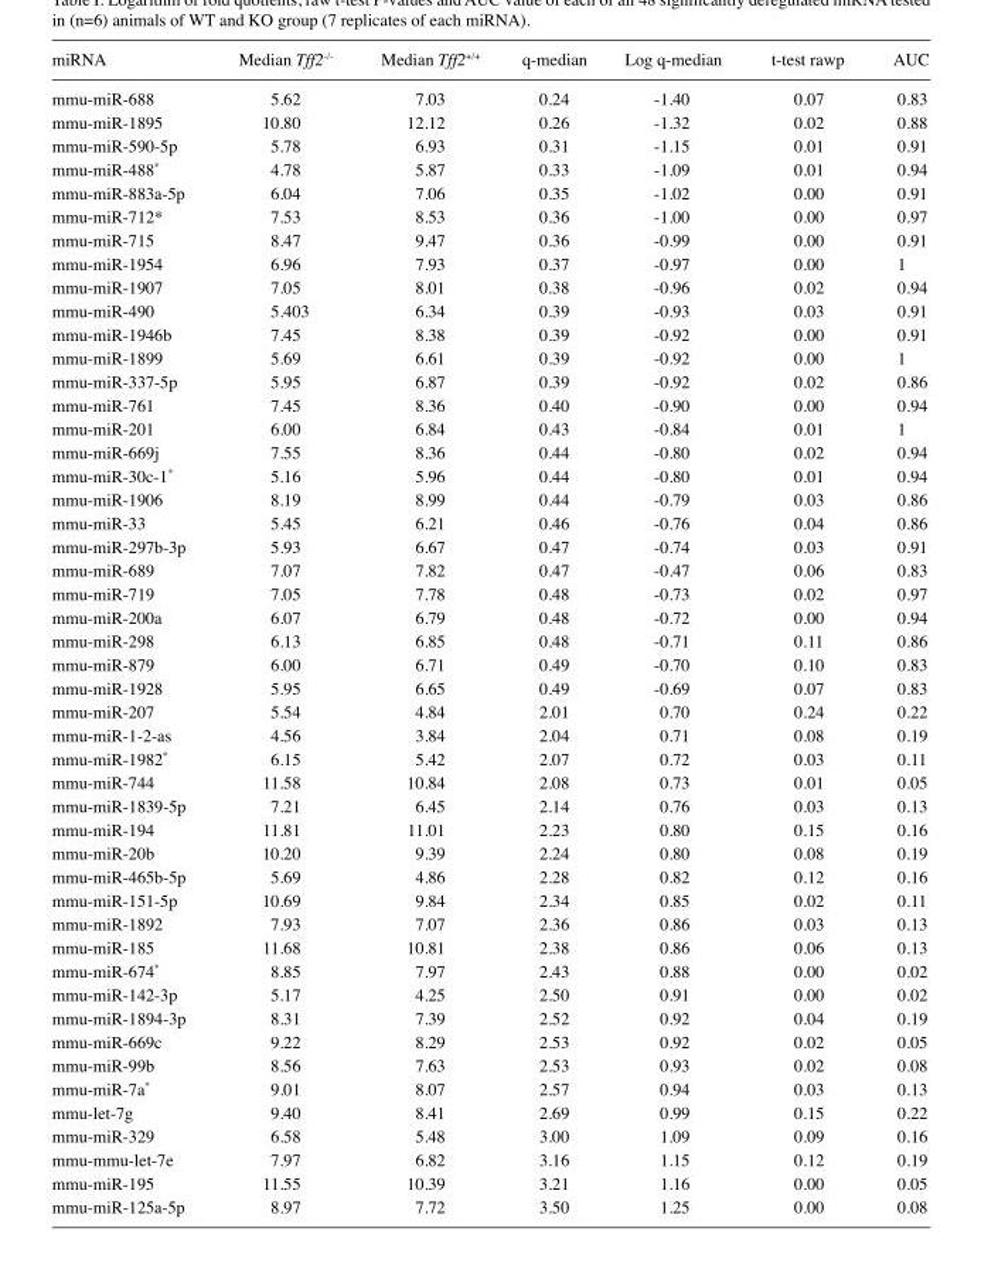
<table><thead><tr><td>miRNA</td><td>Median Tff2<sup>-/-</sup></td><td>Median Tff2<sup>+/+</sup></td><td>q-median</td><td>Log q-median</td><td>t-test rawp</td><td>AUC</td></tr></thead><tbody><tr><td>mmu-miR-688</td><td>5.62</td><td>7.03</td><td>0.24</td><td>-1.40</td><td>0.07</td><td>0.83</td></tr><tr><td>mmu-miR-1895</td><td>10.80</td><td>12.12</td><td>0.26</td><td>-1.32</td><td>0.02</td><td>0.88</td></tr><tr><td>mmu-miR-590-5p</td><td>5.78</td><td>6.93</td><td>0.31</td><td>-1.15</td><td>0.01</td><td>0.91</td></tr><tr><td>mmu-miR-488*</td><td>4.78</td><td>5.87</td><td>0.33</td><td>-1.09</td><td>0.01</td><td>0.94</td></tr><tr><td>mmu-miR-883a-5p</td><td>6.04</td><td>7.06</td><td>0.35</td><td>-1.02</td><td>0.00</td><td>0.91</td></tr><tr><td>mmu-miR-712*</td><td>7.53</td><td>8.53</td><td>0.36</td><td>-1.00</td><td>0.00</td><td>0.97</td></tr><tr><td>mmu-miR-715</td><td>8.47</td><td>9.47</td><td>0.36</td><td>-0.99</td><td>0.00</td><td>0.91</td></tr><tr><td>mmu-miR-1954</td><td>6.96</td><td>7.93</td><td>0.37</td><td>-0.97</td><td>0.00</td><td>1</td></tr><tr><td>mmu-miR-1907</td><td>7.05</td><td>8.01</td><td>0.38</td><td>-0.96</td><td>0.02</td><td>0.94</td></tr><tr><td>mmu-miR-490</td><td>5.403</td><td>6.34</td><td>0.39</td><td>-0.93</td><td>0.03</td><td>0.91</td></tr><tr><td>mmu-miR-1946b</td><td>7.45</td><td>8.38</td><td>0.39</td><td>-0.92</td><td>0.00</td><td>0.91</td></tr><tr><td>mmu-miR-1899</td><td>5.69</td><td>6.61</td><td>0.39</td><td>-0.92</td><td>0.00</td><td>1</td></tr><tr><td>mmu-miR-337-5p</td><td>5.95</td><td>6.87</td><td>0.39</td><td>-0.92</td><td>0.02</td><td>0.86</td></tr><tr><td>mmu-miR-761</td><td>7.45</td><td>8.36</td><td>0.40</td><td>-0.90</td><td>0.00</td><td>0.94</td></tr><tr><td>mmu-miR-201</td><td>6.00</td><td>6.84</td><td>0.43</td><td>-0.84</td><td>0.01</td><td>1</td></tr><tr><td>mmu-miR-669j</td><td>7.55</td><td>8.36</td><td>0.44</td><td>-0.80</td><td>0.02</td><td>0.94</td></tr><tr><td>mmu-miR-30c-1*</td><td>5.16</td><td>5.96</td><td>0.44</td><td>-0.80</td><td>0.01</td><td>0.94</td></tr><tr><td>mmu-miR-1906</td><td>8.19</td><td>8.99</td><td>0.44</td><td>-0.79</td><td>0.03</td><td>0.86</td></tr><tr><td>mmu-miR-33</td><td>5.45</td><td>6.21</td><td>0.46</td><td>-0.76</td><td>0.04</td><td>0.86</td></tr><tr><td>mmu-miR-297b-3p</td><td>5.93</td><td>6.67</td><td>0.47</td><td>-0.74</td><td>0.03</td><td>0.91</td></tr><tr><td>mmu-miR-689</td><td>7.07</td><td>7.82</td><td>0.47</td><td>-0.47</td><td>0.06</td><td>0.83</td></tr><tr><td>mmu-miR-719</td><td>7.05</td><td>7.78</td><td>0.48</td><td>-0.73</td><td>0.02</td><td>0.97</td></tr><tr><td>mmu-miR-200a</td><td>6.07</td><td>6.79</td><td>0.48</td><td>-0.72</td><td>0.00</td><td>0.94</td></tr><tr><td>mmu-miR-298</td><td>6.13</td><td>6.85</td><td>0.48</td><td>-0.71</td><td>0.11</td><td>0.86</td></tr><tr><td>mmu-miR-879</td><td>6.00</td><td>6.71</td><td>0.49</td><td>-0.70</td><td>0.10</td><td>0.83</td></tr><tr><td>mmu-miR-1928</td><td>5.95</td><td>6.65</td><td>0.49</td><td>-0.69</td><td>0.07</td><td>0.83</td></tr><tr><td>mmu-miR-207</td><td>5.54</td><td>4.84</td><td>2.01</td><td>0.70</td><td>0.24</td><td>0.22</td></tr><tr><td>mmu-miR-1-2-as</td><td>4.56</td><td>3.84</td><td>2.04</td><td>0.71</td><td>0.08</td><td>0.19</td></tr><tr><td>mmu-miR-1982*</td><td>6.15</td><td>5.42</td><td>2.07</td><td>0.72</td><td>0.03</td><td>0.11</td></tr><tr><td>mmu-miR-744</td><td>11.58</td><td>10.84</td><td>2.08</td><td>0.73</td><td>0.01</td><td>0.05</td></tr><tr><td>mmu-miR-1839-5p</td><td>7.21</td><td>6.45</td><td>2.14</td><td>0.76</td><td>0.03</td><td>0.13</td></tr><tr><td>mmu-miR-194</td><td>11.81</td><td>11.01</td><td>2.23</td><td>0.80</td><td>0.15</td><td>0.16</td></tr><tr><td>mmu-miR-20b</td><td>10.20</td><td>9.39</td><td>2.24</td><td>0.80</td><td>0.08</td><td>0.19</td></tr><tr><td>mmu-miR-465b-5p</td><td>5.69</td><td>4.86</td><td>2.28</td><td>0.82</td><td>0.12</td><td>0.16</td></tr><tr><td>mmu-miR-151-5p</td><td>10.69</td><td>9.84</td><td>2.34</td><td>0.85</td><td>0.02</td><td>0.11</td></tr><tr><td>mmu-miR-1892</td><td>7.93</td><td>7.07</td><td>2.36</td><td>0.86</td><td>0.03</td><td>0.13</td></tr><tr><td>mmu-miR-185</td><td>11.68</td><td>10.81</td><td>2.38</td><td>0.86</td><td>0.06</td><td>0.13</td></tr><tr><td>mmu-miR-674*</td><td>8.85</td><td>7.97</td><td>2.43</td><td>0.88</td><td>0.00</td><td>0.02</td></tr><tr><td>mmu-miR-142-3p</td><td>5.17</td><td>4.25</td><td>2.50</td><td>0.91</td><td>0.00</td><td>0.02</td></tr><tr><td>mmu-miR-1894-3p</td><td>8.31</td><td>7.39</td><td>2.52</td><td>0.92</td><td>0.04</td><td>0.19</td></tr><tr><td>mmu-miR-669c</td><td>9.22</td><td>8.29</td><td>2.53</td><td>0.92</td><td>0.02</td><td>0.05</td></tr><tr><td>mmu-miR-99b</td><td>8.56</td><td>7.63</td><td>2.53</td><td>0.93</td><td>0.02</td><td>0.08</td></tr><tr><td>mmu-miR-7a*</td><td>9.01</td><td>8.07</td><td>2.57</td><td>0.94</td><td>0.03</td><td>0.13</td></tr><tr><td>mmu-let-7g</td><td>9.40</td><td>8.41</td><td>2.69</td><td>0.99</td><td>0.15</td><td>0.22</td></tr><tr><td>mmu-miR-329</td><td>6.58</td><td>5.48</td><td>3.00</td><td>1.09</td><td>0.09</td><td>0.16</td></tr><tr><td>mmu-mmu-let-7e</td><td>7.97</td><td>6.82</td><td>3.16</td><td>1.15</td><td>0.12</td><td>0.19</td></tr><tr><td>mmu-miR-195</td><td>11.55</td><td>10.39</td><td>3.21</td><td>1.16</td><td>0.00</td><td>0.05</td></tr><tr><td>mmu-miR-125a-5p</td><td>8.97</td><td>7.72</td><td>3.50</td><td>1.25</td><td>0.00</td><td>0.08</td></tr></tbody></table>